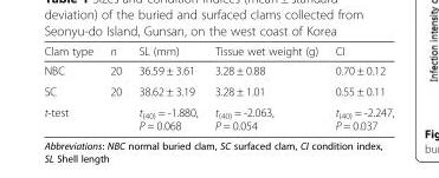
<table><thead><tr><td>Clam type</td><td>n</td><td>SL (mm)</td><td>Tissue wet weight (g)</td><td>CI</td></tr></thead><tbody><tr><td>NBC</td><td>20</td><td>36.59 ± 3.61</td><td>3.28 ± 0.88</td><td>0.70 ± 0.12</td></tr><tr><td>SC</td><td>20</td><td>38.62 ± 3.19</td><td>3.28 ± 1.01</td><td>0.55 ± 0.11</td></tr><tr><td>t-test</td><td></td><td>t<sub>(40)</sub> = -1.880, P = 0.068</td><td>t<sub>(40)</sub> = -2.063, P = 0.054</td><td>t<sub>(40)</sub> = -2.247, P = 0.037</td></tr></tbody></table>